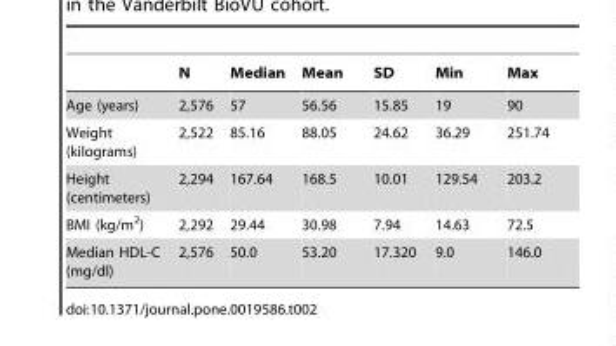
<table><thead><tr><td></td><td>N</td><td>Median</td><td>Mean</td><td>SD</td><td>Min</td><td>Max</td></tr></thead><tbody><tr><td>Age (years)</td><td>2,576</td><td>57</td><td>56.56</td><td>15.85</td><td>19</td><td>90</td></tr><tr><td>Weight (kilograms)</td><td>2,522</td><td>85.16</td><td>88.05</td><td>24.62</td><td>36.29</td><td>251.74</td></tr><tr><td>Height (centimeters)</td><td>2,294</td><td>167.64</td><td>168.5</td><td>10.01</td><td>129.54</td><td>203.2</td></tr><tr><td>BMI (kg/m<sup>2</sup>)</td><td>2,292</td><td>29.44</td><td>30.98</td><td>7.94</td><td>14.63</td><td>72.5</td></tr><tr><td>Median HDL-C (mg/dl)</td><td>2,576</td><td>50.0</td><td>53.20</td><td>17.320</td><td>9.0</td><td>146.0</td></tr></tbody></table>